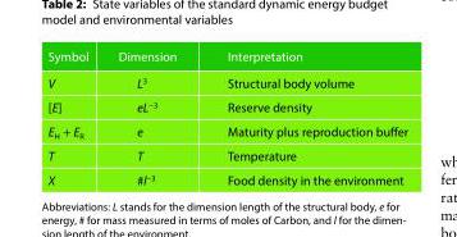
<table><thead><tr><td>Symbol</td><td>Dimension</td><td>Interpretation</td></tr></thead><tbody><tr><td>V</td><td>L<sup>3</sup></td><td>Structural body volume</td></tr><tr><td>[E]</td><td>eL<sup>−3</sup></td><td>Reserve density</td></tr><tr><td>E<sub>H</sub> + E<sub>R</sub></td><td>e</td><td>Maturity plus reproduction buffer</td></tr><tr><td>T</td><td>T</td><td>Temperature</td></tr><tr><td>X</td><td>#l<sup>−3</sup></td><td>Food density in the environment</td></tr></tbody></table>